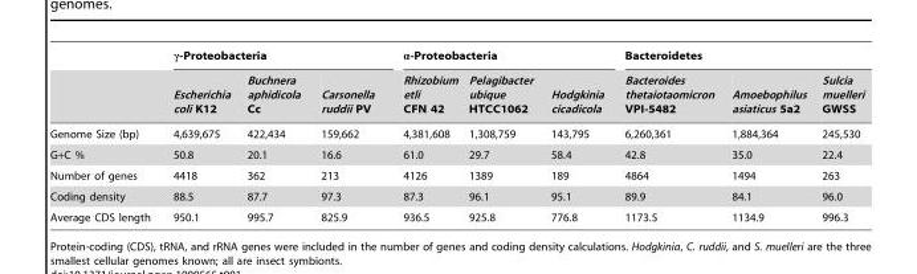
<table><thead><tr><td rowspan="2"></td><td colspan="3">γ-Proteobacteria</td><td colspan="3">α-Proteobacteria</td><td colspan="3">Bacteroidetes</td></tr><tr><td>Escherichia coli K12</td><td>Buchnera aphidicola Cc</td><td>Carsonella ruddii PV</td><td>Rhizobium etli CFN 42</td><td>Pelagibacter ubique HTCC1062</td><td>Hodgkinia cicadicola</td><td>Bacteroides thetaiotaomicron VPI-5482</td><td>Amoebophilus asiaticus 5a2</td><td>Sulcia muelleri GWSS</td></tr></thead><tbody><tr><td>Genome Size (bp)</td><td>4,639,675</td><td>422,434</td><td>159,662</td><td>4,381,608</td><td>1,308,759</td><td>143,795</td><td>6,260,361</td><td>1,884,364</td><td>245,530</td></tr><tr><td>G+C %</td><td>50.8</td><td>20.1</td><td>16.6</td><td>61.0</td><td>29.7</td><td>58.4</td><td>42.8</td><td>35.0</td><td>22.4</td></tr><tr><td>Number of genes</td><td>4418</td><td>362</td><td>213</td><td>4126</td><td>1389</td><td>189</td><td>4864</td><td>1494</td><td>263</td></tr><tr><td>Coding density</td><td>88.5</td><td>87.7</td><td>97.3</td><td>87.3</td><td>96.1</td><td>95.1</td><td>89.9</td><td>84.1</td><td>96.0</td></tr><tr><td>Average CDS length</td><td>950.1</td><td>995.7</td><td>825.9</td><td>936.5</td><td>925.8</td><td>776.8</td><td>1173.5</td><td>1134.9</td><td>996.3</td></tr></tbody></table>